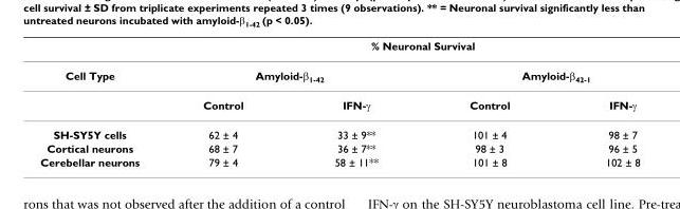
<table><thead><tr><td rowspan="3">Cell Type</td><td colspan="4">% Neuronal Survival</td></tr><tr><td colspan="2">Amyloid-β<sub>1-42</sub></td><td colspan="2">Amyloid-β<sub>42-1</sub></td></tr><tr><td>Control</td><td>IFN-γ</td><td>Control</td><td>IFN-γ</td></tr></thead><tbody><tr><td>SH-SY5Y cells</td><td>62 ± 4</td><td>33 ± 9**</td><td>101 ± 4</td><td>98 ± 7</td></tr><tr><td>Cortical neurons</td><td>68 ± 7</td><td>36 ± 7**</td><td>98 ± 3</td><td>96 ± 5</td></tr><tr><td>Cerebellar neurons</td><td>79 ± 4</td><td>58 ± 11**</td><td>101 ± 8</td><td>102 ± 8</td></tr></tbody></table>